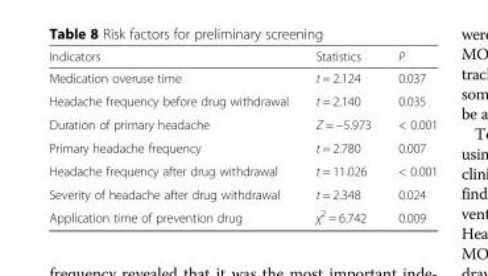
<table><thead><tr><td>Indicators</td><td>Statistics</td><td>P</td></tr></thead><tbody><tr><td>Medication overuse time</td><td>t = 2.124</td><td>0.037</td></tr><tr><td>Headache frequency before drug withdrawal</td><td>t = 2.140</td><td>0.035</td></tr><tr><td>Duration of primary headache</td><td>Z = −5.973</td><td>&lt; 0.001</td></tr><tr><td>Primary headache frequency</td><td>t = 2.780</td><td>0.007</td></tr><tr><td>Headache frequency after drug withdrawal</td><td>t = 11.026</td><td>&lt; 0.001</td></tr><tr><td>Severity of headache after drug withdrawal</td><td>t = 2.348</td><td>0.024</td></tr><tr><td>Application time of prevention drug</td><td>χ<sup>2</sup> = 6.742</td><td>0.009</td></tr></tbody></table>